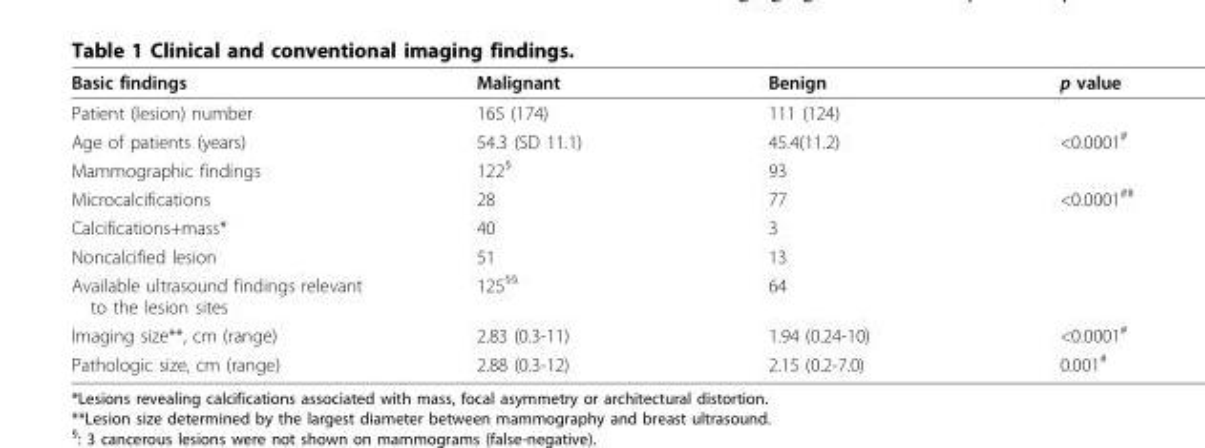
<table><thead><tr><td>Basic findings</td><td>Malignant</td><td>Benign</td><td>p value</td></tr></thead><tbody><tr><td>Patient (lesion) number</td><td>165 (174)</td><td>111 (124)</td><td></td></tr><tr><td>Age of patients (years)</td><td>54.3 (SD 11.1)</td><td>45.4(11.2)</td><td>&lt;0.0001<sup>#</sup></td></tr><tr><td>Mammographic findings</td><td>122<sup>§</sup></td><td>93</td><td></td></tr><tr><td>Microcalcifications</td><td>28</td><td>77</td><td>&lt;0.0001<sup>##</sup></td></tr><tr><td>Calcifications+mass*</td><td>40</td><td>3</td><td></td></tr><tr><td>Noncalcified lesion</td><td>51</td><td>13</td><td></td></tr><tr><td>Available ultrasound findings relevant to the lesion sites</td><td>125<sup>§§</sup></td><td>64</td><td></td></tr><tr><td>Imaging size**, cm (range)</td><td>2.83 (0.3-11)</td><td>1.94 (0.24-10)</td><td>&lt;0.0001<sup>#</sup></td></tr><tr><td>Pathologic size, cm (range)</td><td>2.88 (0.3-12)</td><td>2.15 (0.2-7.0)</td><td>0.001<sup>#</sup></td></tr></tbody></table>